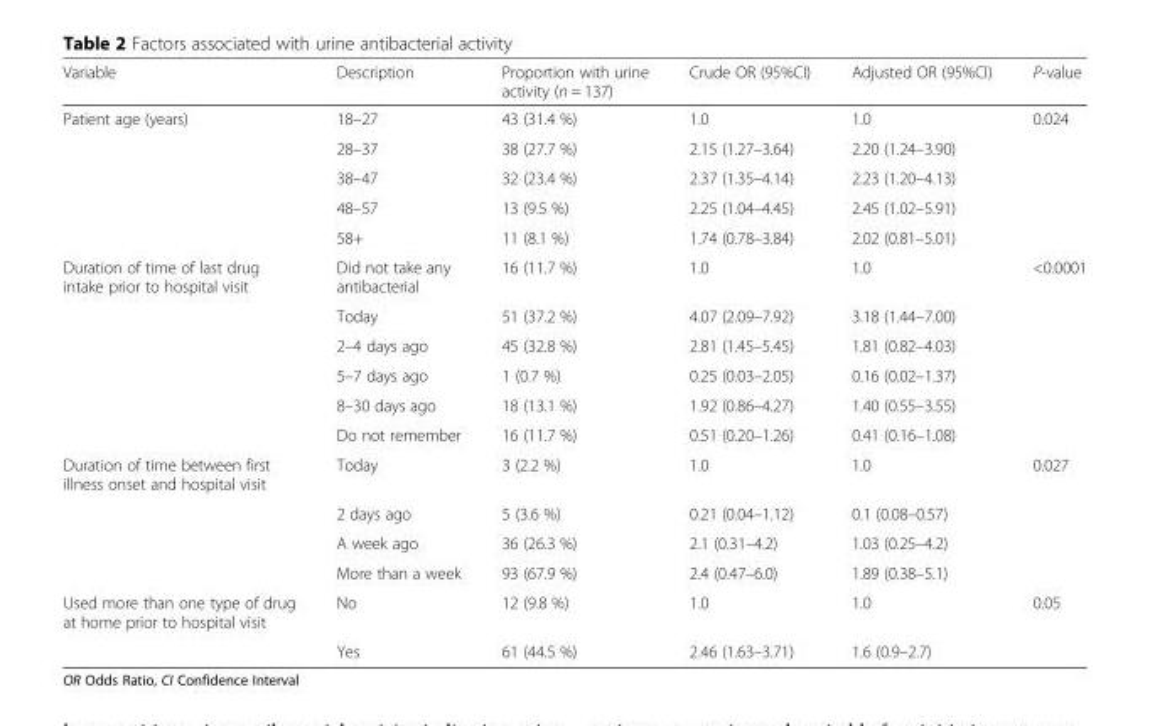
<table><thead><tr><td>Variable</td><td>Description</td><td>Proportion with urine activity (n = 137)</td><td>Crude OR (95%CI)</td><td>Adjusted OR (95%CI)</td><td>P-value</td></tr></thead><tbody><tr><td rowspan="5">Patient age (years)</td><td>18–27</td><td>43 (31.4 %)</td><td>1.0</td><td>1.0</td><td>0.024</td></tr><tr><td>28–37</td><td>38 (27.7 %)</td><td>2.15 (1.27–3.64)</td><td>2.20 (1.24–3.90)</td><td></td></tr><tr><td>38–47</td><td>32 (23.4 %)</td><td>2.37 (1.35–4.14)</td><td>2.23 (1.20–4.13)</td><td></td></tr><tr><td>48–57</td><td>13 (9.5 %)</td><td>2.25 (1.04–4.45)</td><td>2.45 (1.02–5.91)</td><td></td></tr><tr><td>58+</td><td>11 (8.1 %)</td><td>1.74 (0.78–3.84)</td><td>2.02 (0.81–5.01)</td><td></td></tr><tr><td rowspan="6">Duration of time of last drug intake prior to hospital visit</td><td>Did not take any antibacterial</td><td>16 (11.7 %)</td><td>1.0</td><td>1.0</td><td>&lt;0.0001</td></tr><tr><td>Today</td><td>51 (37.2 %)</td><td>4.07 (2.09–7.92)</td><td>3.18 (1.44–7.00)</td><td></td></tr><tr><td>2–4 days ago</td><td>45 (32.8 %)</td><td>2.81 (1.45–5.45)</td><td>1.81 (0.82–4.03)</td><td></td></tr><tr><td>5–7 days ago</td><td>1 (0.7 %)</td><td>0.25 (0.03–2.05)</td><td>0.16 (0.02–1.37)</td><td></td></tr><tr><td>8–30 days ago</td><td>18 (13.1 %)</td><td>1.92 (0.86–4.27)</td><td>1.40 (0.55–3.55)</td><td></td></tr><tr><td>Do not remember</td><td>16 (11.7 %)</td><td>0.51 (0.20–1.26)</td><td>0.41 (0.16–1.08)</td><td></td></tr><tr><td rowspan="4">Duration of time between first illness onset and hospital visit</td><td>Today</td><td>3 (2.2 %)</td><td>1.0</td><td>1.0</td><td>0.027</td></tr><tr><td>2 days ago</td><td>5 (3.6 %)</td><td>0.21 (0.04–1.12)</td><td>0.1 (0.08–0.57)</td><td></td></tr><tr><td>A week ago</td><td>36 (26.3 %)</td><td>2.1 (0.31–4.2)</td><td>1.03 (0.25–4.2)</td><td></td></tr><tr><td>More than a week</td><td>93 (67.9 %)</td><td>2.4 (0.47–6.0)</td><td>1.89 (0.38–5.1)</td><td></td></tr><tr><td rowspan="2">Used more than one type of drug at home prior to hospital visit</td><td>No</td><td>12 (9.8 %)</td><td>1.0</td><td>1.0</td><td>0.05</td></tr><tr><td>Yes</td><td>61 (44.5 %)</td><td>2.46 (1.63–3.71)</td><td>1.6 (0.9–2.7)</td><td></td></tr></tbody></table>